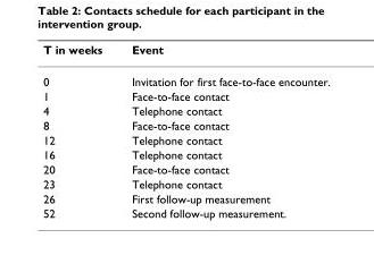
<table><thead><tr><td>T in weeks</td><td>Event</td></tr></thead><tbody><tr><td>0</td><td>Invitation for first face-to-face encounter.</td></tr><tr><td>1</td><td>Face-to-face contact</td></tr><tr><td>4</td><td>Telephone contact</td></tr><tr><td>8</td><td>Face-to-face contact</td></tr><tr><td>12</td><td>Telephone contact</td></tr><tr><td>16</td><td>Telephone contact</td></tr><tr><td>20</td><td>Face-to-face contact</td></tr><tr><td>23</td><td>Telephone contact</td></tr><tr><td>26</td><td>First follow-up measurement</td></tr><tr><td>52</td><td>Second follow-up measurement.</td></tr></tbody></table>